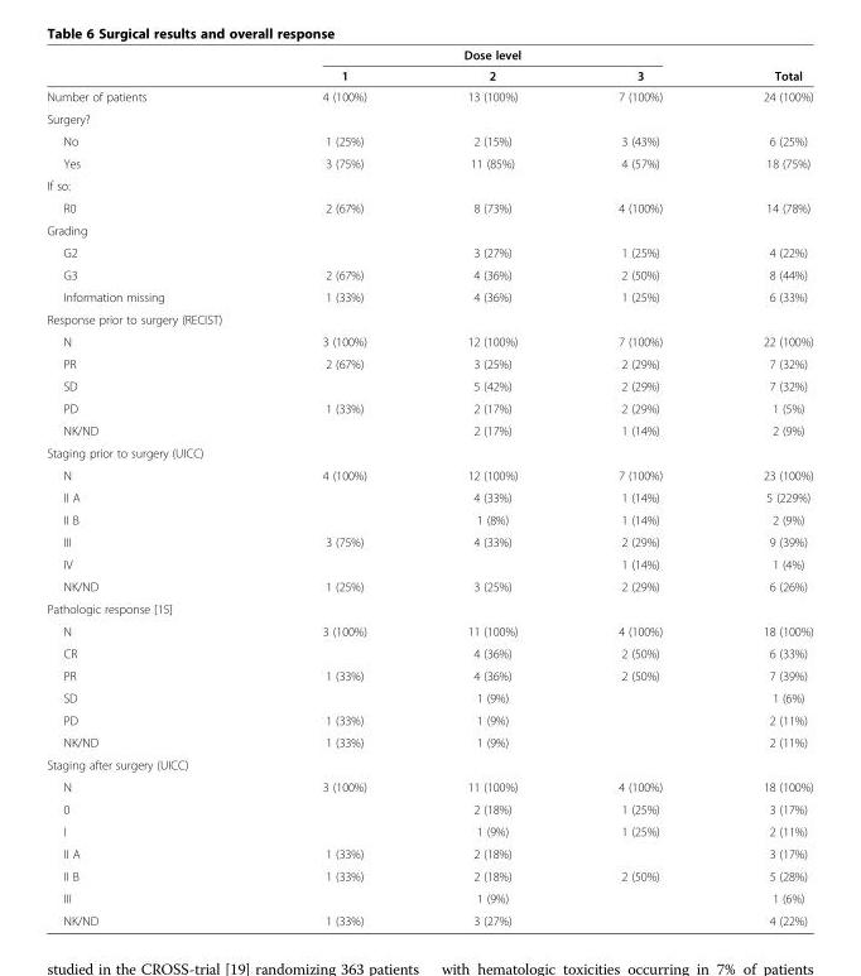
<table><thead><tr><td rowspan="2"></td><td colspan="3">Dose level</td><td rowspan="2">Total</td></tr><tr><td>1</td><td>2</td><td>3</td></tr></thead><tbody><tr><td>Number of patients</td><td>4 (100%)</td><td>13 (100%)</td><td>7 (100%)</td><td>24 (100%)</td></tr><tr><td colspan="5">Surgery?</td></tr><tr><td>No</td><td>1 (25%)</td><td>2 (15%)</td><td>3 (43%)</td><td>6 (25%)</td></tr><tr><td>Yes</td><td>3 (75%)</td><td>11 (85%)</td><td>4 (57%)</td><td>18 (75%)</td></tr><tr><td colspan="5">If so:</td></tr><tr><td>R0</td><td>2 (67%)</td><td>8 (73%)</td><td>4 (100%)</td><td>14 (78%)</td></tr><tr><td colspan="5">Grading</td></tr><tr><td>G2</td><td></td><td>3 (27%)</td><td>1 (25%)</td><td>4 (22%)</td></tr><tr><td>G3</td><td>2 (67%)</td><td>4 (36%)</td><td>2 (50%)</td><td>8 (44%)</td></tr><tr><td>Information missing</td><td>1 (33%)</td><td>4 (36%)</td><td>1 (25%)</td><td>6 (33%)</td></tr><tr><td colspan="5">Response prior to surgery (RECIST)</td></tr><tr><td>N</td><td>3 (100%)</td><td>12 (100%)</td><td>7 (100%)</td><td>22 (100%)</td></tr><tr><td>PR</td><td>2 (67%)</td><td>3 (25%)</td><td>2 (29%)</td><td>7 (32%)</td></tr><tr><td>SD</td><td></td><td>5 (42%)</td><td>2 (29%)</td><td>7 (32%)</td></tr><tr><td>PD</td><td>1 (33%)</td><td>2 (17%)</td><td>2 (29%)</td><td>1 (5%)</td></tr><tr><td>NK/ND</td><td></td><td>2 (17%)</td><td>1 (14%)</td><td>2 (9%)</td></tr><tr><td colspan="5">Staging prior to surgery (UICC)</td></tr><tr><td>N</td><td>4 (100%)</td><td>12 (100%)</td><td>7 (100%)</td><td>23 (100%)</td></tr><tr><td>II A</td><td></td><td>4 (33%)</td><td>1 (14%)</td><td>5 (229%)</td></tr><tr><td>II B</td><td></td><td>1 (8%)</td><td>1 (14%)</td><td>2 (9%)</td></tr><tr><td>III</td><td>3 (75%)</td><td>4 (33%)</td><td>2 (29%)</td><td>9 (39%)</td></tr><tr><td>IV</td><td></td><td></td><td>1 (14%)</td><td>1 (4%)</td></tr><tr><td>NK/ND</td><td>1 (25%)</td><td>3 (25%)</td><td>2 (29%)</td><td>6 (26%)</td></tr><tr><td colspan="5">Pathologic response [15]</td></tr><tr><td>N</td><td>3 (100%)</td><td>11 (100%)</td><td>4 (100%)</td><td>18 (100%)</td></tr><tr><td>CR</td><td></td><td>4 (36%)</td><td>2 (50%)</td><td>6 (33%)</td></tr><tr><td>PR</td><td>1 (33%)</td><td>4 (36%)</td><td>2 (50%)</td><td>7 (39%)</td></tr><tr><td>SD</td><td></td><td>1 (9%)</td><td></td><td>1 (6%)</td></tr><tr><td>PD</td><td>1 (33%)</td><td>1 (9%)</td><td></td><td>2 (11%)</td></tr><tr><td>NK/ND</td><td>1 (33%)</td><td>1 (9%)</td><td></td><td>2 (11%)</td></tr><tr><td colspan="5">Staging after surgery (UICC)</td></tr><tr><td>N</td><td>3 (100%)</td><td>11 (100%)</td><td>4 (100%)</td><td>18 (100%)</td></tr><tr><td>0</td><td></td><td>2 (18%)</td><td>1 (25%)</td><td>3 (17%)</td></tr><tr><td>I</td><td></td><td>1 (9%)</td><td>1 (25%)</td><td>2 (11%)</td></tr><tr><td>II A</td><td>1 (33%)</td><td>2 (18%)</td><td></td><td>3 (17%)</td></tr><tr><td>II B</td><td>1 (33%)</td><td>2 (18%)</td><td>2 (50%)</td><td>5 (28%)</td></tr><tr><td>III</td><td></td><td>1 (9%)</td><td></td><td>1 (6%)</td></tr><tr><td>NK/ND</td><td>1 (33%)</td><td>3 (27%)</td><td></td><td>4 (22%)</td></tr></tbody></table>